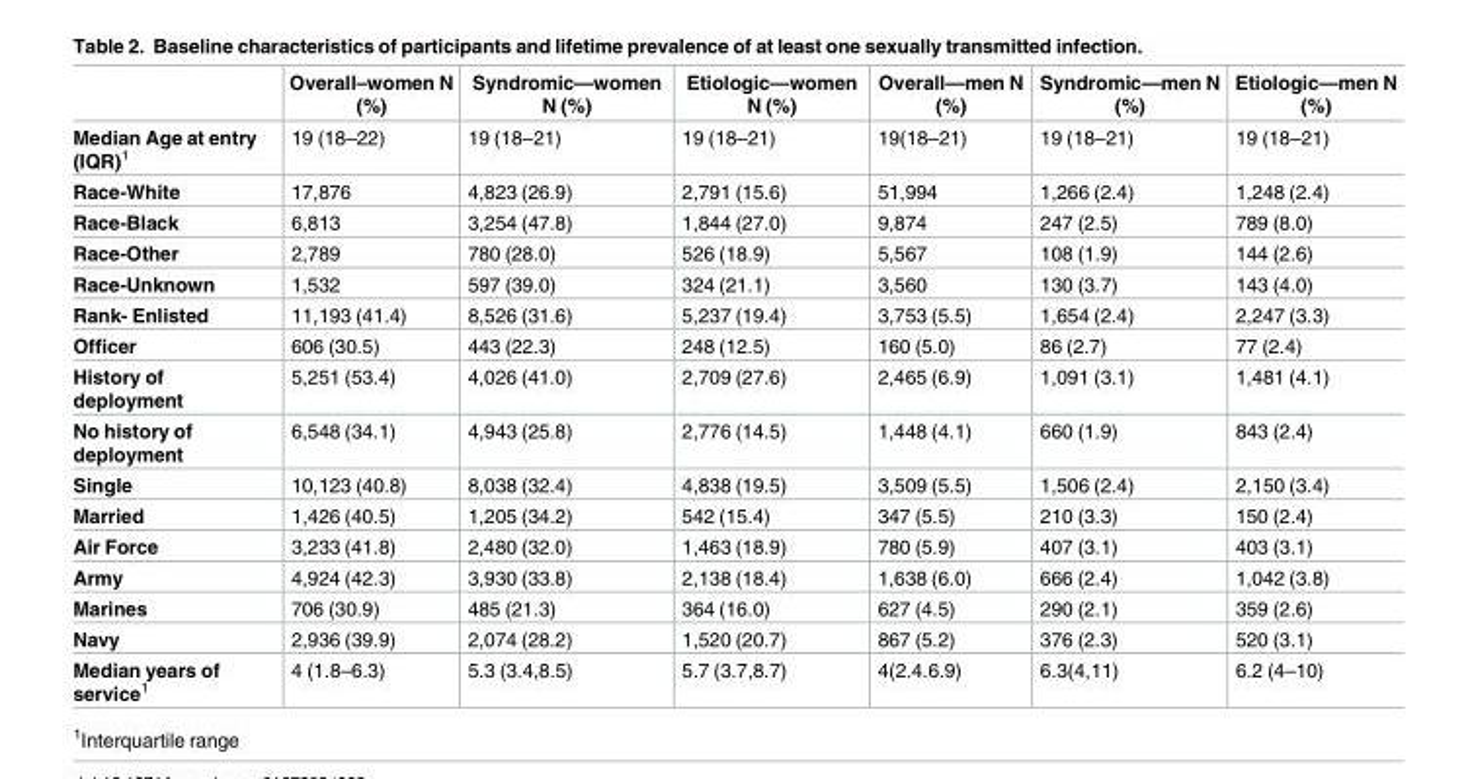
<table><thead><tr><td></td><td>Overall–women N (%)</td><td>Syndromic—women N (%)</td><td>Etiologic—women N (%)</td><td>Overall—men N (%)</td><td>Syndromic—men N (%)</td><td>Etiologic—men N (%)</td></tr></thead><tbody><tr><td>Median Age at entry (IQR)<sup>1</sup></td><td>19 (18–22)</td><td>19 (18–21)</td><td>19 (18–21)</td><td>19(18–21)</td><td>19 (18–21)</td><td>19 (18–21)</td></tr><tr><td>Race-White</td><td>17,876</td><td>4,823 (26.9)</td><td>2,791 (15.6)</td><td>51,994</td><td>1,266 (2.4)</td><td>1,248 (2.4)</td></tr><tr><td>Race-Black</td><td>6,813</td><td>3,254 (47.8)</td><td>1,844 (27.0)</td><td>9,874</td><td>247 (2.5)</td><td>789 (8.0)</td></tr><tr><td>Race-Other</td><td>2,789</td><td>780 (28.0)</td><td>526 (18.9)</td><td>5,567</td><td>108 (1.9)</td><td>144 (2.6)</td></tr><tr><td>Race-Unknown</td><td>1,532</td><td>597 (39.0)</td><td>324 (21.1)</td><td>3,560</td><td>130 (3.7)</td><td>143 (4.0)</td></tr><tr><td>Rank- Enlisted</td><td>11,193 (41.4)</td><td>8,526 (31.6)</td><td>5,237 (19.4)</td><td>3,753 (5.5)</td><td>1,654 (2.4)</td><td>2,247 (3.3)</td></tr><tr><td>Officer</td><td>606 (30.5)</td><td>443 (22.3)</td><td>248 (12.5)</td><td>160 (5.0)</td><td>86 (2.7)</td><td>77 (2.4)</td></tr><tr><td>History of deployment</td><td>5,251 (53.4)</td><td>4,026 (41.0)</td><td>2,709 (27.6)</td><td>2,465 (6.9)</td><td>1,091 (3.1)</td><td>1,481 (4.1)</td></tr><tr><td>No history of deployment</td><td>6,548 (34.1)</td><td>4,943 (25.8)</td><td>2,776 (14.5)</td><td>1,448 (4.1)</td><td>660 (1.9)</td><td>843 (2.4)</td></tr><tr><td>Single</td><td>10,123 (40.8)</td><td>8,038 (32.4)</td><td>4,838 (19.5)</td><td>3,509 (5.5)</td><td>1,506 (2.4)</td><td>2,150 (3.4)</td></tr><tr><td>Married</td><td>1,426 (40.5)</td><td>1,205 (34.2)</td><td>542 (15.4)</td><td>347 (5.5)</td><td>210 (3.3)</td><td>150 (2.4)</td></tr><tr><td>Air Force</td><td>3,233 (41.8)</td><td>2,480 (32.0)</td><td>1,463 (18.9)</td><td>780 (5.9)</td><td>407 (3.1)</td><td>403 (3.1)</td></tr><tr><td>Army</td><td>4,924 (42.3)</td><td>3,930 (33.8)</td><td>2,138 (18.4)</td><td>1,638 (6.0)</td><td>666 (2.4)</td><td>1,042 (3.8)</td></tr><tr><td>Marines</td><td>706 (30.9)</td><td>485 (21.3)</td><td>364 (16.0)</td><td>627 (4.5)</td><td>290 (2.1)</td><td>359 (2.6)</td></tr><tr><td>Navy</td><td>2,936 (39.9)</td><td>2,074 (28.2)</td><td>1,520 (20.7)</td><td>867 (5.2)</td><td>376 (2.3)</td><td>520 (3.1)</td></tr><tr><td>Median years of service<sup>1</sup></td><td>4 (1.8–6.3)</td><td>5.3 (3.4,8.5)</td><td>5.7 (3.7,8.7)</td><td>4(2.4.6.9)</td><td>6.3(4,11)</td><td>6.2 (4–10)</td></tr></tbody></table>